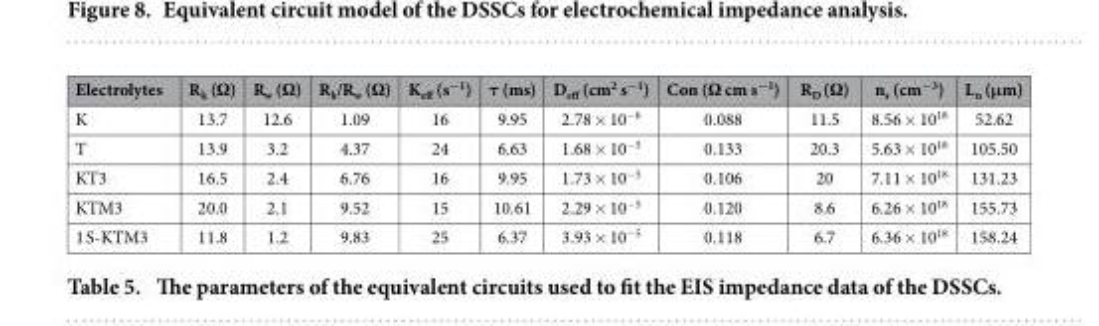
<table><thead><tr><td>Electrolytes</td><td>R<sub>k</sub> (Ω)</td><td>R<sub>w</sub> (Ω)</td><td>R<sub>k</sub>/R<sub>w</sub> (Ω)</td><td>K<sub>eff</sub> (s<sup>−1</sup>)</td><td>τ (ms)</td><td>D<sub>eff</sub> (cm<sup>2</sup> s<sup>−1</sup>)</td><td>Con (Ω cm s<sup>−1</sup>)</td><td>R<sub>D</sub> (Ω)</td><td>n<sub>s</sub> (cm<sup>−3</sup>)</td><td>L<sub>n</sub> (μm)</td></tr></thead><tbody><tr><td>K</td><td>13.7</td><td>12.6</td><td>1.09</td><td>16</td><td>9.95</td><td>2.78 × 10<sup>−6</sup></td><td>0.088</td><td>11.5</td><td>8.56 × 10<sup>18</sup></td><td>52.62</td></tr><tr><td>T</td><td>13.9</td><td>3.2</td><td>4.37</td><td>24</td><td>6.63</td><td>1.68 × 10<sup>−5</sup></td><td>0.133</td><td>20.3</td><td>5.63 × 10<sup>18</sup></td><td>105.50</td></tr><tr><td>KT3</td><td>16.5</td><td>2.4</td><td>6.76</td><td>16</td><td>9.95</td><td>1.73 × 10<sup>−5</sup></td><td>0.106</td><td>20</td><td>7.11 × 10<sup>18</sup></td><td>131.23</td></tr><tr><td>KTM3</td><td>20.0</td><td>2.1</td><td>9.52</td><td>15</td><td>10.61</td><td>2.29 × 10<sup>−5</sup></td><td>0.120</td><td>8.6</td><td>6.26 × 10<sup>18</sup></td><td>155.73</td></tr><tr><td>1 S-KTM3</td><td>11.8</td><td>1.2</td><td>9.83</td><td>25</td><td>6.37</td><td>3.93 × 10<sup>−5</sup></td><td>0.118</td><td>6.7</td><td>6.36 × 10<sup>18</sup></td><td>158.24</td></tr></tbody></table>